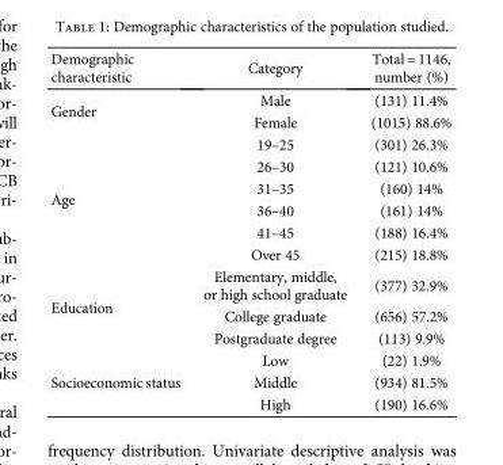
<table><thead><tr><td>Demographic characteristic</td><td>Category</td><td>Total = 1146, number (%)</td></tr></thead><tbody><tr><td rowspan="2">Gender</td><td>Male</td><td>(131) 11.4%</td></tr><tr><td>Female</td><td>(1015) 88.6%</td></tr><tr><td rowspan="6">Age</td><td>19–25</td><td>(301) 26.3%</td></tr><tr><td>26–30</td><td>(121) 10.6%</td></tr><tr><td>31–35</td><td>(160) 14%</td></tr><tr><td>36–40</td><td>(161) 14%</td></tr><tr><td>41–45</td><td>(188) 16.4%</td></tr><tr><td>Over 45</td><td>(215) 18.8%</td></tr><tr><td rowspan="3">Education</td><td>Elementary, middle, or high school graduate</td><td>(377) 32.9%</td></tr><tr><td>College graduate</td><td>(656) 57.2%</td></tr><tr><td>Postgraduate degree</td><td>(113) 9.9%</td></tr><tr><td rowspan="3">Socioeconomic status</td><td>Low</td><td>(22) 1.9%</td></tr><tr><td>Middle</td><td>(934) 81.5%</td></tr><tr><td>High</td><td>(190) 16.6%</td></tr></tbody></table>